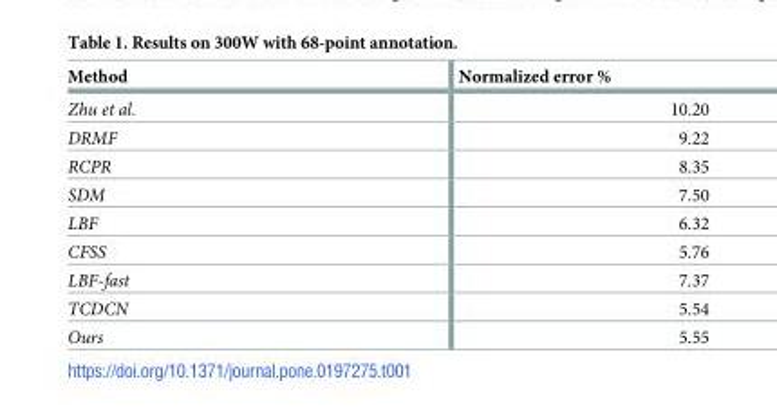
<table><thead><tr><td>Method</td><td>Normalized error %</td></tr></thead><tbody><tr><td>Zhu et al.</td><td>10.20</td></tr><tr><td>DRMF</td><td>9.22</td></tr><tr><td>RCPR</td><td>8.35</td></tr><tr><td>SDM</td><td>7.50</td></tr><tr><td>LBF</td><td>6.32</td></tr><tr><td>CFSS</td><td>5.76</td></tr><tr><td>LBF-fast</td><td>7.37</td></tr><tr><td>TCDCN</td><td>5.54</td></tr><tr><td>Ours</td><td>5.55</td></tr></tbody></table>